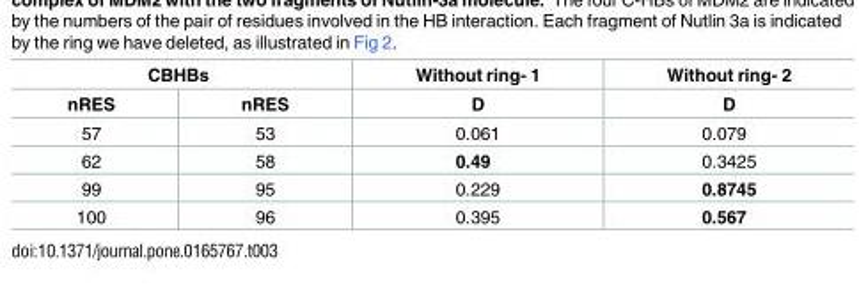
<table><thead><tr><td colspan="2">CBHBs</td><td rowspan="2">Without ring- 1 D</td><td rowspan="2">Without ring- 2 D</td></tr><tr><td>nRES</td><td>nRES</td></tr></thead><tbody><tr><td>57</td><td>53</td><td>0.061</td><td>0.079</td></tr><tr><td>62</td><td>58</td><td>0.49</td><td>0.3425</td></tr><tr><td>99</td><td>95</td><td>0.229</td><td>0.8745</td></tr><tr><td>100</td><td>96</td><td>0.395</td><td>0.567</td></tr></tbody></table>